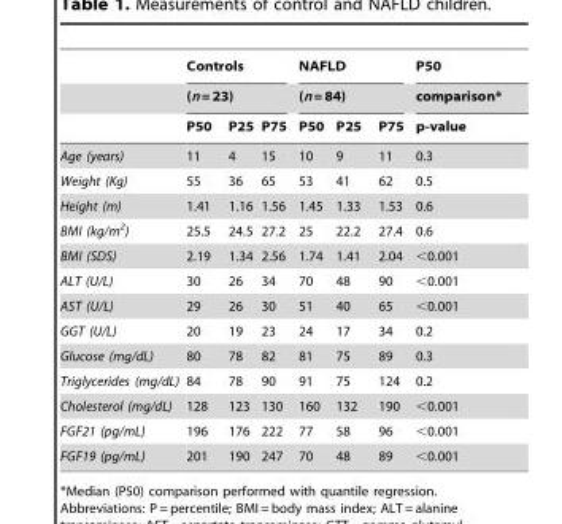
<table><thead><tr><td rowspan="3"></td><td rowspan="2" colspan="3">Controls (n = 23)</td><td rowspan="2" colspan="3">NAFLD (n = 84)</td><td rowspan="3">P50 comparison* p-value</td></tr><tr></tr><tr><td>P50</td><td>P25</td><td>P75</td><td>P50</td><td>P25</td><td>P75</td></tr></thead><tbody><tr><td>Age (years)</td><td>11</td><td>4</td><td>15</td><td>10</td><td>9</td><td>11</td><td>0.3</td></tr><tr><td>Weight (Kg)</td><td>55</td><td>36</td><td>65</td><td>53</td><td>41</td><td>62</td><td>0.5</td></tr><tr><td>Height (m)</td><td>1.41</td><td>1.16</td><td>1.56</td><td>1.45</td><td>1.33</td><td>1.53</td><td>0.6</td></tr><tr><td>BMI (kg/m<sup>2</sup>)</td><td>25.5</td><td>24.5</td><td>27.2</td><td>25</td><td>22.2</td><td>27.4</td><td>0.6</td></tr><tr><td>BMI (SDS)</td><td>2.19</td><td>1.34</td><td>2.56</td><td>1.74</td><td>1.41</td><td>2.04</td><td>&lt;0.001</td></tr><tr><td>ALT (U/L)</td><td>30</td><td>26</td><td>34</td><td>70</td><td>48</td><td>90</td><td>&lt;0.001</td></tr><tr><td>AST (U/L)</td><td>29</td><td>26</td><td>30</td><td>51</td><td>40</td><td>65</td><td>&lt;0.001</td></tr><tr><td>GGT (U/L)</td><td>20</td><td>19</td><td>23</td><td>24</td><td>17</td><td>34</td><td>0.2</td></tr><tr><td>Glucose (mg/dL)</td><td>80</td><td>78</td><td>82</td><td>81</td><td>75</td><td>89</td><td>0.3</td></tr><tr><td>Triglycerides (mg/dL)</td><td>84</td><td>78</td><td>90</td><td>91</td><td>75</td><td>124</td><td>0.2</td></tr><tr><td>Cholesterol (mg/dL)</td><td>128</td><td>123</td><td>130</td><td>160</td><td>132</td><td>190</td><td>&lt;0.001</td></tr><tr><td>FGF21 (pg/mL)</td><td>196</td><td>176</td><td>222</td><td>77</td><td>58</td><td>96</td><td>&lt;0.001</td></tr><tr><td>FGF19 (pg/mL)</td><td>201</td><td>190</td><td>247</td><td>70</td><td>48</td><td>89</td><td>&lt;0.001</td></tr></tbody></table>